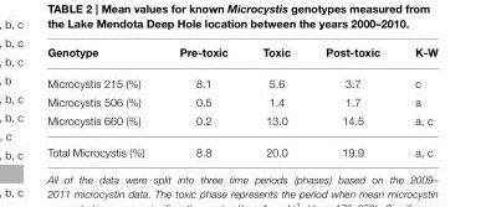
<table><thead><tr><td>Genotype</td><td>Pre-toxic</td><td>Toxic</td><td>Post-toxic</td><td>K-W</td></tr></thead><tbody><tr><td>Microcystis 215 (%)</td><td>8.1</td><td>5.6</td><td>3.7</td><td>c</td></tr><tr><td>Microcystis 506 (%)</td><td>0.5</td><td>1.4</td><td>1.7</td><td>a</td></tr><tr><td>Microcystis 660 (%)</td><td>0.2</td><td>13.0</td><td>14.5</td><td>a, c</td></tr><tr><td>Total Microcystis (%)</td><td>8.8</td><td>20.0</td><td>19.9</td><td>a, c</td></tr></tbody></table>